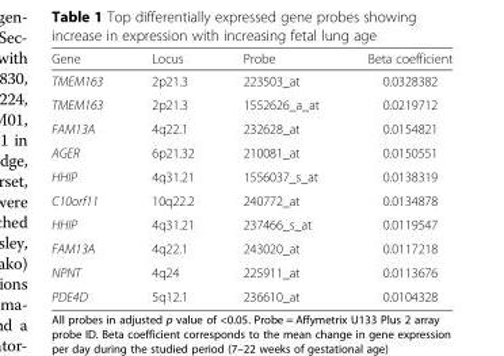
<table><thead><tr><td>Gene</td><td>Locus</td><td>Probe</td><td>Beta coefficient</td></tr></thead><tbody><tr><td>TMEM163</td><td>2p21.3</td><td>223503_at</td><td>0.0328382</td></tr><tr><td>TMEM163</td><td>2p21.3</td><td>1552626_a_at</td><td>0.0219712</td></tr><tr><td>FAM13A</td><td>4q22.1</td><td>232628_at</td><td>0.0154821</td></tr><tr><td>AGER</td><td>6p21.32</td><td>210081_at</td><td>0.0150551</td></tr><tr><td>HHIP</td><td>4q31.21</td><td>1556037_s_at</td><td>0.0138319</td></tr><tr><td>C10orf11</td><td>10q22.2</td><td>240772_at</td><td>0.0134878</td></tr><tr><td>HHIP</td><td>4q31.21</td><td>237466_s_at</td><td>0.0119547</td></tr><tr><td>FAM13A</td><td>4q22.1</td><td>243020_at</td><td>0.0117218</td></tr><tr><td>NPNT</td><td>4q24</td><td>225911_at</td><td>0.0113676</td></tr><tr><td>PDE4D</td><td>5q12.1</td><td>236610_at</td><td>0.0104328</td></tr></tbody></table>